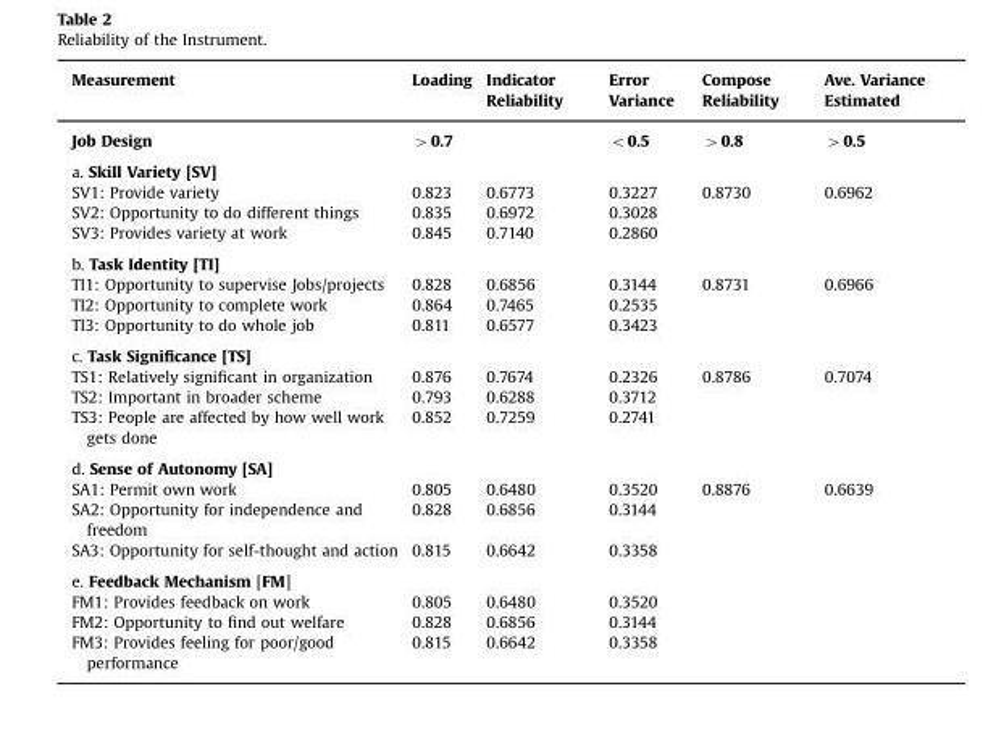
<table><thead><tr><td>Measurement</td><td>Loading</td><td>Indicator Reliability</td><td>Error Variance</td><td>Compose Reliability</td><td>Ave. Variance Estimated</td></tr></thead><tbody><tr><td>Job Design</td><td>&gt;0.7</td><td></td><td>&lt;0.5</td><td>&gt;0.8</td><td>&gt;0.5</td></tr><tr><td colspan="6">a. Skill Variety [SV]</td></tr><tr><td>SV1: Provide variety</td><td>0.823</td><td>0.6773</td><td>0.3227</td><td rowspan="3">0.8730</td><td rowspan="3">0.6962</td></tr><tr><td>SV2: Opportunity to do different things</td><td>0.835</td><td>0.6972</td><td>0.3028</td></tr><tr><td>SV3: Provides variety at work</td><td>0.845</td><td>0.7140</td><td>0.2860</td></tr><tr><td colspan="6">b. Task Identity [TI]</td></tr><tr><td>TI1: Opportunity to supervise Jobs/projects</td><td>0.828</td><td>0.6856</td><td>0.3144</td><td rowspan="3">0.8731</td><td rowspan="3">0.6966</td></tr><tr><td>TI2: Opportunity to complete work</td><td>0.864</td><td>0.7465</td><td>0.2535</td></tr><tr><td>TI3: Opportunity to do whole job</td><td>0.811</td><td>0.6577</td><td>0.3423</td></tr><tr><td colspan="6">c. Task Significance [TS]</td></tr><tr><td>TS1: Relatively significant in organization</td><td>0.876</td><td>0.7674</td><td>0.2326</td><td rowspan="3">0.8786</td><td rowspan="3">0.7074</td></tr><tr><td>TS2: Important in broader scheme</td><td>0.793</td><td>0.6288</td><td>0.3712</td></tr><tr><td>TS3: People are affected by how well work gets done</td><td>0.852</td><td>0.7259</td><td>0.2741</td></tr><tr><td colspan="6">d. Sense of Autonomy [SA]</td></tr><tr><td>SA1: Permit own work</td><td>0.805</td><td>0.6480</td><td>0.3520</td><td rowspan="3">0.8876</td><td rowspan="3">0.6639</td></tr><tr><td>SA2: Opportunity for independence and freedom</td><td>0.828</td><td>0.6856</td><td>0.3144</td></tr><tr><td>SA3: Opportunity for self-thought and action</td><td>0.815</td><td>0.6642</td><td>0.3358</td></tr><tr><td colspan="6">e. Feedback Mechanism [FM]</td></tr><tr><td>FM1: Provides feedback on work</td><td>0.805</td><td>0.6480</td><td>0.3520</td><td></td><td></td></tr><tr><td>FM2: Opportunity to find out welfare</td><td>0.828</td><td>0.6856</td><td>0.3144</td><td></td><td></td></tr><tr><td>FM3: Provides feeling for poor/good performance</td><td>0.815</td><td>0.6642</td><td>0.3358</td><td></td><td></td></tr></tbody></table>